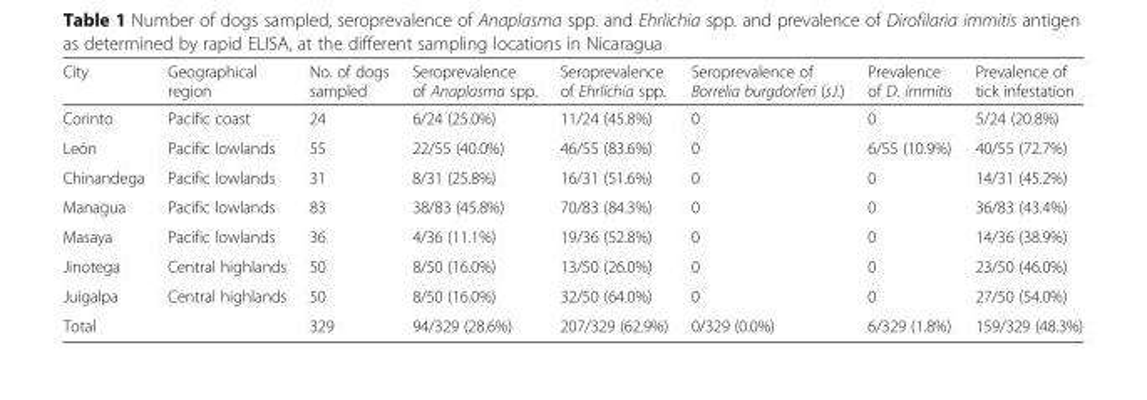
<table><thead><tr><td>City</td><td>Geographical region</td><td>No. of dogs sampled</td><td>Seroprevalence of Anaplasma spp.</td><td>Seroprevalence of Ehrlichia spp.</td><td>Seroprevalence of Borrelia burgdorferi (s.l.)</td><td>Prevalence of D. immitis</td><td>Prevalence of tick infestation</td></tr></thead><tbody><tr><td>Corinto</td><td>Pacific coast</td><td>24</td><td>6/24 (25.0%)</td><td>11/24 (45.8%)</td><td>0</td><td>0</td><td>5/24 (20.8%)</td></tr><tr><td>León</td><td>Pacific lowlands</td><td>55</td><td>22/55 (40.0%)</td><td>46/55 (83.6%)</td><td>0</td><td>6/55 (10.9%)</td><td>40/55 (72.7%)</td></tr><tr><td>Chinandega</td><td>Pacific lowlands</td><td>31</td><td>8/31 (25.8%)</td><td>16/31 (51.6%)</td><td>0</td><td>0</td><td>14/31 (45.2%)</td></tr><tr><td>Managua</td><td>Pacific lowlands</td><td>83</td><td>38/83 (45.8%)</td><td>70/83 (84.3%)</td><td>0</td><td>0</td><td>36/83 (43.4%)</td></tr><tr><td>Masaya</td><td>Pacific lowlands</td><td>36</td><td>4/36 (11.1%)</td><td>19/36 (52.8%)</td><td>0</td><td>0</td><td>14/36 (38.9%)</td></tr><tr><td>Jinotega</td><td>Central highlands</td><td>50</td><td>8/50 (16.0%)</td><td>13/50 (26.0%)</td><td>0</td><td>0</td><td>23/50 (46.0%)</td></tr><tr><td>Juigalpa</td><td>Central highlands</td><td>50</td><td>8/50 (16.0%)</td><td>32/50 (64.0%)</td><td>0</td><td>0</td><td>27/50 (54.0%)</td></tr><tr><td>Total</td><td></td><td>329</td><td>94/329 (28.6%)</td><td>207/329 (62.9%)</td><td>0/329 (0.0%)</td><td>6/329 (1.8%)</td><td>159/329 (48.3%)</td></tr></tbody></table>